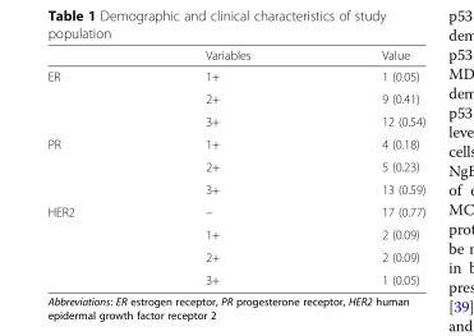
<table><thead><tr><td></td><td>Variables</td><td>Value</td></tr></thead><tbody><tr><td rowspan="3">ER</td><td>1+</td><td>1 (0.05)</td></tr><tr><td>2+</td><td>9 (0.41)</td></tr><tr><td>3+</td><td>12 (0.54)</td></tr><tr><td rowspan="3">PR</td><td>1+</td><td>4 (0.18)</td></tr><tr><td>2+</td><td>5 (0.23)</td></tr><tr><td>3+</td><td>13 (0.59)</td></tr><tr><td rowspan="4">HER2</td><td>–</td><td>17 (0.77)</td></tr><tr><td>1+</td><td>2 (0.09)</td></tr><tr><td>2+</td><td>2 (0.09)</td></tr><tr><td>3+</td><td>1 (0.05)</td></tr></tbody></table>